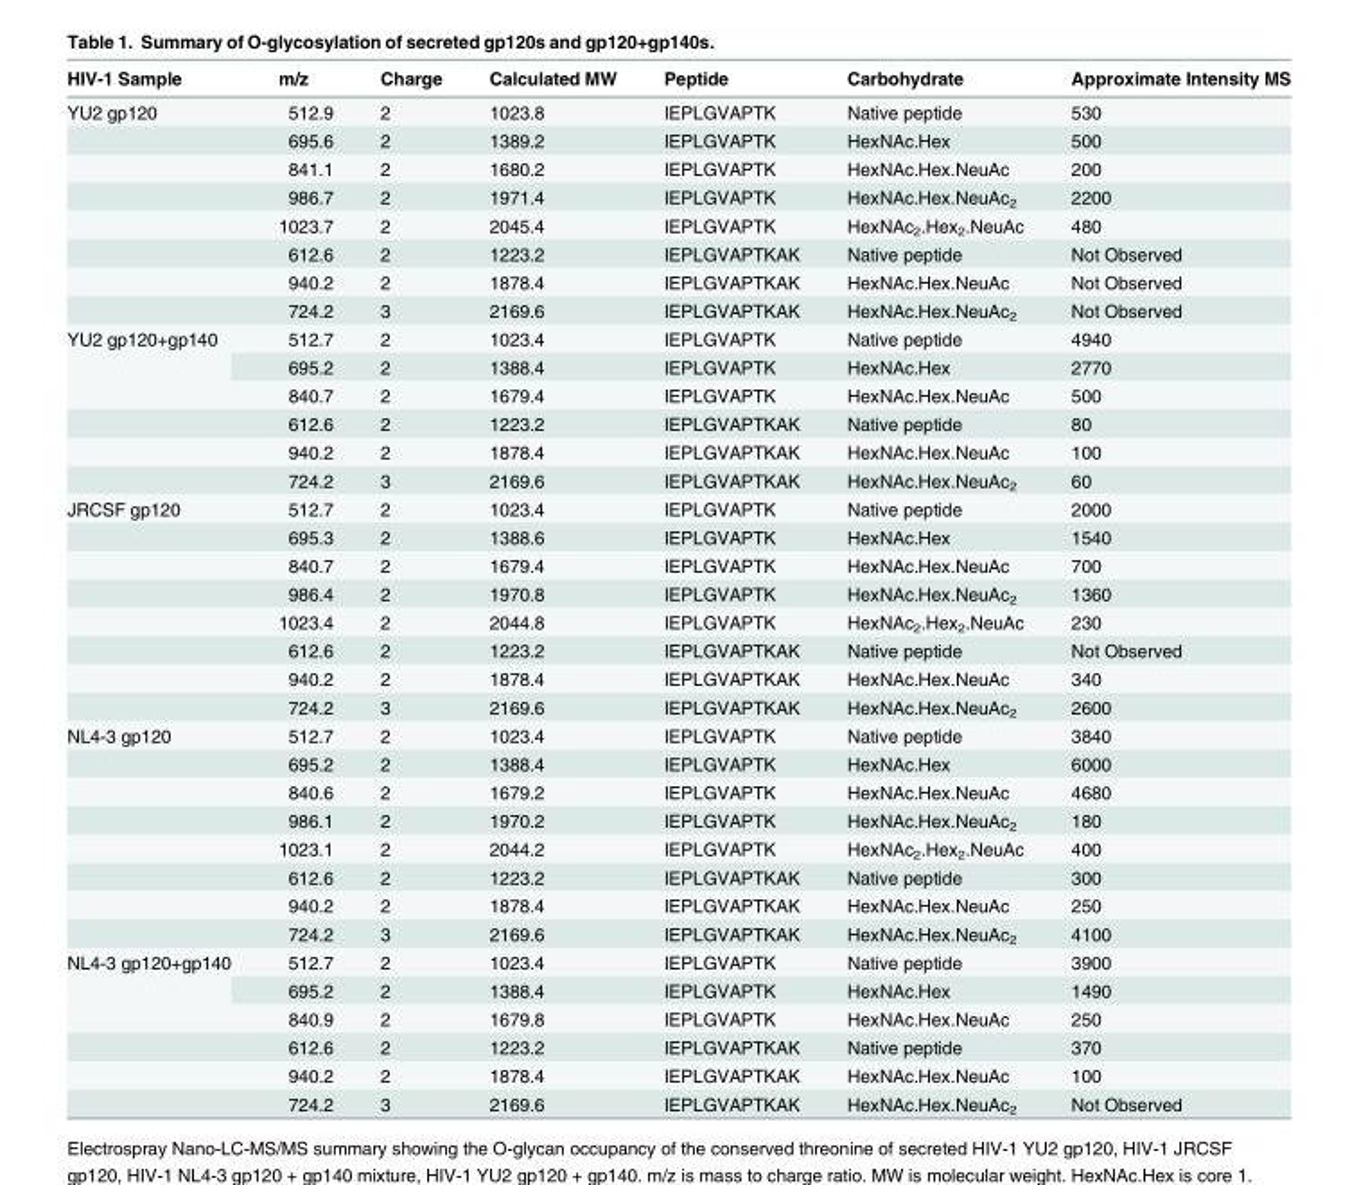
<table><thead><tr><td>HIV-1 Sample</td><td>m/z</td><td>Charge</td><td>Calculated MW</td><td>Peptide</td><td>Carbohydrate</td><td>Approximate Intensity MS</td></tr></thead><tbody><tr><td rowspan="8">YU2 gp120</td><td>512.9</td><td>2</td><td>1023.8</td><td>IEPLGVAPTK</td><td>Native peptide</td><td>530</td></tr><tr><td>695.6</td><td>2</td><td>1389.2</td><td>IEPLGVAPTK</td><td>HexNAc.Hex</td><td>500</td></tr><tr><td>841.1</td><td>2</td><td>1680.2</td><td>IEPLGVAPTK</td><td>HexNAc.Hex.NeuAc</td><td>200</td></tr><tr><td>986.7</td><td>2</td><td>1971.4</td><td>IEPLGVAPTK</td><td>HexNAc.Hex.NeuAc<sub>2</sub></td><td>2200</td></tr><tr><td>1023.7</td><td>2</td><td>2045.4</td><td>IEPLGVAPTK</td><td>HexNAc<sub>2</sub>.Hex<sub>2</sub>.NeuAc</td><td>480</td></tr><tr><td>612.6</td><td>2</td><td>1223.2</td><td>IEPLGVAPTKAK</td><td>Native peptide</td><td>Not Observed</td></tr><tr><td>940.2</td><td>2</td><td>1878.4</td><td>IEPLGVAPTKAK</td><td>HexNAc.Hex.NeuAc</td><td>Not Observed</td></tr><tr><td>724.2</td><td>3</td><td>2169.6</td><td>IEPLGVAPTKAK</td><td>HexNAc.Hex.NeuAc<sub>2</sub></td><td>Not Observed</td></tr><tr><td rowspan="6">YU2 gp120+gp140</td><td>512.7</td><td>2</td><td>1023.4</td><td>IEPLGVAPTK</td><td>Native peptide</td><td>4940</td></tr><tr><td>695.2</td><td>2</td><td>1388.4</td><td>IEPLGVAPTK</td><td>HexNAc.Hex</td><td>2770</td></tr><tr><td>840.7</td><td>2</td><td>1679.4</td><td>IEPLGVAPTK</td><td>HexNAc.Hex.NeuAc</td><td>500</td></tr><tr><td>612.6</td><td>2</td><td>1223.2</td><td>IEPLGVAPTKAK</td><td>Native peptide</td><td>80</td></tr><tr><td>940.2</td><td>2</td><td>1878.4</td><td>IEPLGVAPTKAK</td><td>HexNAc.Hex.NeuAc</td><td>100</td></tr><tr><td>724.2</td><td>3</td><td>2169.6</td><td>IEPLGVAPTKAK</td><td>HexNAc.Hex.NeuAc<sub>2</sub></td><td>60</td></tr><tr><td rowspan="8">JRCSF gp120</td><td>512.7</td><td>2</td><td>1023.4</td><td>IEPLGVAPTK</td><td>Native peptide</td><td>2000</td></tr><tr><td>695.3</td><td>2</td><td>1388.6</td><td>IEPLGVAPTK</td><td>HexNAc.Hex</td><td>1540</td></tr><tr><td>840.7</td><td>2</td><td>1679.4</td><td>IEPLGVAPTK</td><td>HexNAc.Hex.NeuAc</td><td>700</td></tr><tr><td>986.4</td><td>2</td><td>1970.8</td><td>IEPLGVAPTK</td><td>HexNAc.Hex.NeuAc<sub>2</sub></td><td>1360</td></tr><tr><td>1023.4</td><td>2</td><td>2044.8</td><td>IEPLGVAPTK</td><td>HexNAc<sub>2</sub>.Hex<sub>2</sub>.NeuAc</td><td>230</td></tr><tr><td>612.6</td><td>2</td><td>1223.2</td><td>IEPLGVAPTKAK</td><td>Native peptide</td><td>Not Observed</td></tr><tr><td>940.2</td><td>2</td><td>1878.4</td><td>IEPLGVAPTKAK</td><td>HexNAc.Hex.NeuAc</td><td>340</td></tr><tr><td>724.2</td><td>3</td><td>2169.6</td><td>IEPLGVAPTKAK</td><td>HexNAc.Hex.NeuAc<sub>2</sub></td><td>2600</td></tr><tr><td rowspan="8">NL4-3 gp120</td><td>512.7</td><td>2</td><td>1023.4</td><td>IEPLGVAPTK</td><td>Native peptide</td><td>3840</td></tr><tr><td>695.2</td><td>2</td><td>1388.4</td><td>IEPLGVAPTK</td><td>HexNAc.Hex</td><td>6000</td></tr><tr><td>840.6</td><td>2</td><td>1679.2</td><td>IEPLGVAPTK</td><td>HexNAc.Hex.NeuAc</td><td>4680</td></tr><tr><td>986.1</td><td>2</td><td>1970.2</td><td>IEPLGVAPTK</td><td>HexNAc.Hex.NeuAc<sub>2</sub></td><td>180</td></tr><tr><td>1023.1</td><td>2</td><td>2044.2</td><td>IEPLGVAPTK</td><td>HexNAc<sub>2</sub>.Hex<sub>2</sub>.NeuAc</td><td>400</td></tr><tr><td>612.6</td><td>2</td><td>1223.2</td><td>IEPLGVAPTKAK</td><td>Native peptide</td><td>300</td></tr><tr><td>940.2</td><td>2</td><td>1878.4</td><td>IEPLGVAPTKAK</td><td>HexNAc.Hex.NeuAc</td><td>250</td></tr><tr><td>724.2</td><td>3</td><td>2169.6</td><td>IEPLGVAPTKAK</td><td>HexNAc.Hex.NeuAc<sub>2</sub></td><td>4100</td></tr><tr><td rowspan="6">NL4-3 gp120+gp140</td><td>512.7</td><td>2</td><td>1023.4</td><td>IEPLGVAPTK</td><td>Native peptide</td><td>3900</td></tr><tr><td>695.2</td><td>2</td><td>1388.4</td><td>IEPLGVAPTK</td><td>HexNAc.Hex</td><td>1490</td></tr><tr><td>840.9</td><td>2</td><td>1679.8</td><td>IEPLGVAPTK</td><td>HexNAc.Hex.NeuAc</td><td>250</td></tr><tr><td>612.6</td><td>2</td><td>1223.2</td><td>IEPLGVAPTKAK</td><td>Native peptide</td><td>370</td></tr><tr><td>940.2</td><td>2</td><td>1878.4</td><td>IEPLGVAPTKAK</td><td>HexNAc.Hex.NeuAc</td><td>100</td></tr><tr><td>724.2</td><td>3</td><td>2169.6</td><td>IEPLGVAPTKAK</td><td>HexNAc.Hex.NeuAc<sub>2</sub></td><td>Not Observed</td></tr></tbody></table>